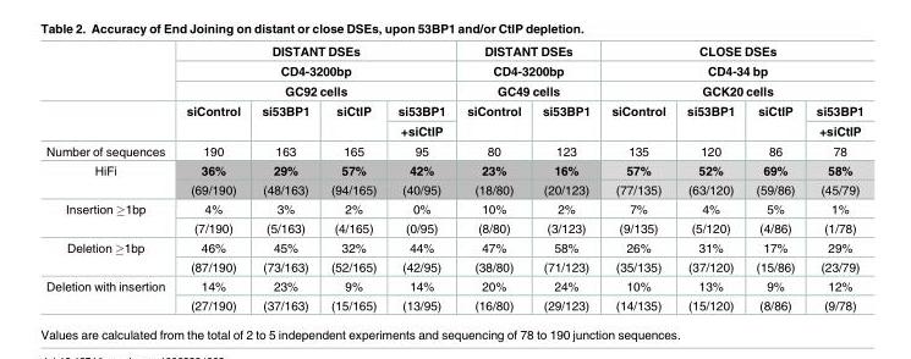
<table><thead><tr><td rowspan="5"></td><td rowspan="3" colspan="4">DISTANT DSEs CD4-3200bp GC92 cells</td><td rowspan="3" colspan="2">DISTANT DSEs CD4-3200bp GC49 cells</td><td rowspan="3" colspan="4">CLOSE DSEs CD4-34 bp GCK20 cells</td></tr><tr></tr><tr></tr><tr><td rowspan="2">siControl</td><td rowspan="2">si53BP1</td><td rowspan="2">siCtIP</td><td rowspan="2">si53BP1 +siCtIP</td><td rowspan="2">siControl</td><td rowspan="2">si53BP1</td><td rowspan="2">siControl</td><td rowspan="2">si53BP1</td><td rowspan="2">siCtIP</td><td rowspan="2">si53BP1 +siCtIP</td></tr><tr></tr></thead><tbody><tr><td>Number of sequences</td><td>190</td><td>163</td><td>165</td><td>95</td><td>80</td><td>123</td><td>135</td><td>120</td><td>86</td><td>78</td></tr><tr><td rowspan="2">HiFi</td><td>36%</td><td>29%</td><td>57%</td><td>42%</td><td>23%</td><td>16%</td><td>57%</td><td>52%</td><td>69%</td><td>58%</td></tr><tr><td>(69/190)</td><td>(48/163)</td><td>(94/165)</td><td>(40/95)</td><td>(18/80)</td><td>(20/123)</td><td>(77/135)</td><td>(63/120)</td><td>(59/86)</td><td>(45/79)</td></tr><tr><td rowspan="2">Insertion ≥1bp</td><td>4%</td><td>3%</td><td>2%</td><td>0%</td><td>10%</td><td>2%</td><td>7%</td><td>4%</td><td>5%</td><td>1%</td></tr><tr><td>(7/190)</td><td>(5/163)</td><td>(4/165)</td><td>(0/95)</td><td>(8/80)</td><td>(3/123)</td><td>(9/135)</td><td>(5/120)</td><td>(4/86)</td><td>(1/78)</td></tr><tr><td rowspan="2">Deletion ≥1bp</td><td>46%</td><td>45%</td><td>32%</td><td>44%</td><td>47%</td><td>58%</td><td>26%</td><td>31%</td><td>17%</td><td>29%</td></tr><tr><td>(87/190)</td><td>(73/163)</td><td>(52/165)</td><td>(42/95)</td><td>(38/80)</td><td>(71/123)</td><td>(35/135)</td><td>(37/120)</td><td>(15/86)</td><td>(23/79)</td></tr><tr><td rowspan="2">Deletion with insertion</td><td>14%</td><td>23%</td><td>9%</td><td>14%</td><td>20%</td><td>24%</td><td>10%</td><td>13%</td><td>9%</td><td>12%</td></tr><tr><td>(27/190)</td><td>(37/163)</td><td>(15/165)</td><td>(13/95)</td><td>(16/80)</td><td>(29/123)</td><td>(14/135)</td><td>(15/120)</td><td>(8/86)</td><td>(9/78)</td></tr></tbody></table>